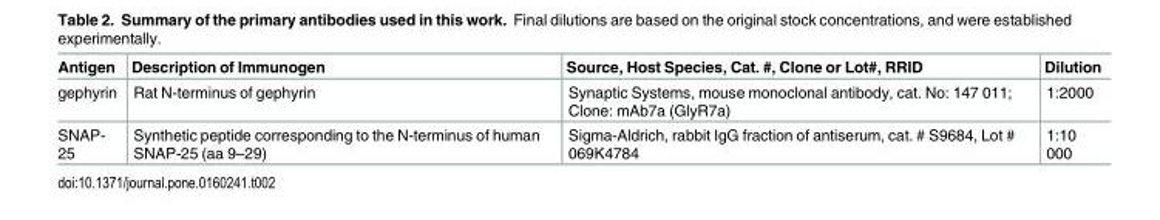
<table><thead><tr><td>Antigen</td><td>Description of Immunogen</td><td>Source, Host Species, Cat. #, Clone or Lot#, RRID</td><td>Dilution</td></tr></thead><tbody><tr><td>gephyrin</td><td>Rat N-terminus of gephyrin</td><td>Synaptic Systems, mouse monoclonal antibody, cat. No: 147 011; Clone: mAb7a (GlyR7a)</td><td>1:2000</td></tr><tr><td>SNAP- 25</td><td>Synthetic peptide corresponding to the N-terminus of human SNAP-25 (aa 9–29)</td><td>Sigma-Aldrich, rabbit IgG fraction of antiserum, cat. # S9684, Lot # 069K4784</td><td>1:10 000</td></tr></tbody></table>